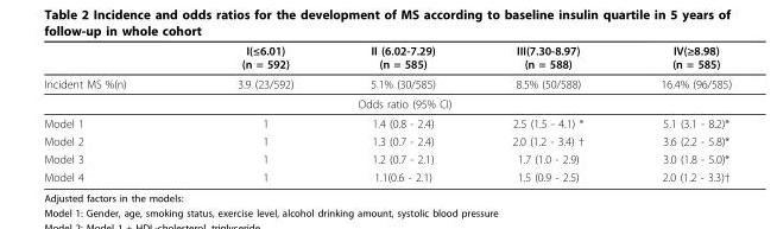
<table><thead><tr><td></td><td>I(≤6.01) (n = 592)</td><td>II (6.02-7.29) (n = 585)</td><td>III(7.30-8.97) (n = 588)</td><td>IV(≥8.98) (n = 585)</td></tr></thead><tbody><tr><td>Incident MS %(n)</td><td>3.9 (23/592)</td><td>5.1% (30/585)</td><td>8.5% (50/588)</td><td>16.4% (96/585)</td></tr><tr><td colspan="5">Odds ratio (95% CI)</td></tr><tr><td>Model 1</td><td>1</td><td>1.4 (0.8 - 2.4)</td><td>2.5 (1.5 - 4.1) *</td><td>5.1 (3.1 - 8.2)*</td></tr><tr><td>Model 2</td><td>1</td><td>1.3 (0.7 - 2.4)</td><td>2.0 (1.2 - 3.4) †</td><td>3.6 (2.2 - 5.8)*</td></tr><tr><td>Model 3</td><td>1</td><td>1.2 (0.7 - 2.1)</td><td>1.7 (1.0 - 2.9)</td><td>3.0 (1.8 - 5.0)*</td></tr><tr><td>Model 4</td><td>1</td><td>1.1(0.6 - 2.1)</td><td>1.5 (0.9 - 2.5)</td><td>2.0 (1.2 - 3.3)†</td></tr></tbody></table>